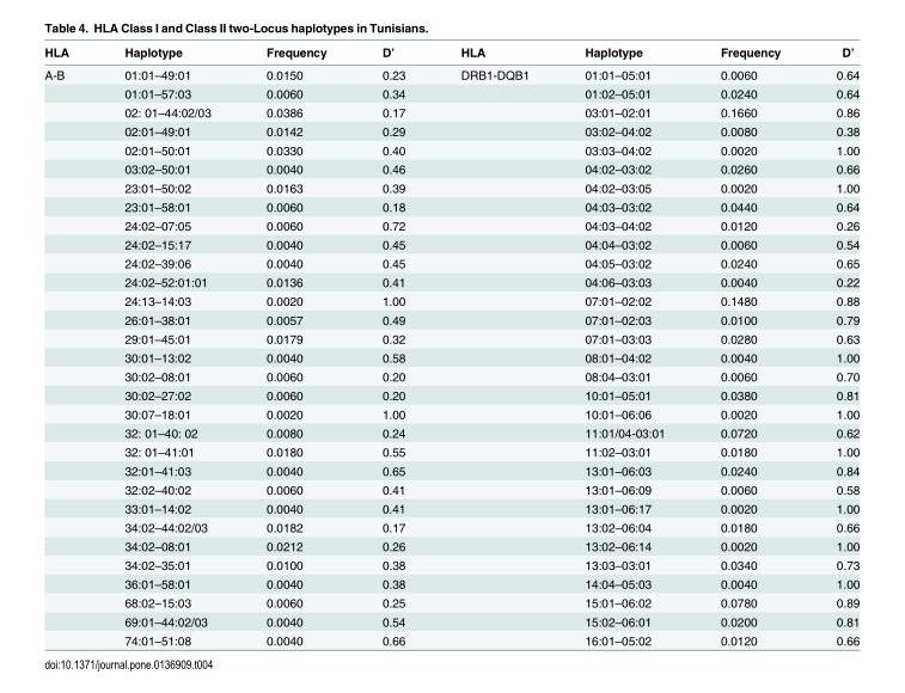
<table><thead><tr><td>HLA</td><td>Haplotype</td><td>Frequency</td><td>D’</td><td>HLA</td><td>Haplotype</td><td>Frequency</td><td>D’</td></tr></thead><tbody><tr><td rowspan="31">A-B</td><td>01:01–49:01</td><td>0.0150</td><td>0.23</td><td>DRB1-DQB1</td><td>01:01–05:01</td><td>0.0060</td><td>0.64</td></tr><tr><td>01:01–57:03</td><td>0.0060</td><td>0.34</td><td></td><td>01:02–05:01</td><td>0.0240</td><td>0.64</td></tr><tr><td>02: 01–44:02/03</td><td>0.0386</td><td>0.17</td><td></td><td>03:01–02:01</td><td>0.1660</td><td>0.86</td></tr><tr><td>02:01–49:01</td><td>0.0142</td><td>0.29</td><td></td><td>03:02–04:02</td><td>0.0080</td><td>0.38</td></tr><tr><td>02:01–50:01</td><td>0.0330</td><td>0.40</td><td></td><td>03:03–04:02</td><td>0.0020</td><td>1.00</td></tr><tr><td>03:02–50:01</td><td>0.0040</td><td>0.46</td><td></td><td>04:02–03:02</td><td>0.0260</td><td>0.66</td></tr><tr><td>23:01–50:02</td><td>0.0163</td><td>0.39</td><td></td><td>04:02–03:05</td><td>0.0020</td><td>1.00</td></tr><tr><td>23:01–58:01</td><td>0.0060</td><td>0.18</td><td></td><td>04:03–03:02</td><td>0.0440</td><td>0.64</td></tr><tr><td>24:02–07:05</td><td>0.0060</td><td>0.72</td><td></td><td>04:03–04:02</td><td>0.0120</td><td>0.26</td></tr><tr><td>24:02–15:17</td><td>0.0040</td><td>0.45</td><td></td><td>04:04–03:02</td><td>0.0060</td><td>0.54</td></tr><tr><td>24:02–39:06</td><td>0.0040</td><td>0.45</td><td></td><td>04:05–03:02</td><td>0.0240</td><td>0.65</td></tr><tr><td>24:02–52:01:01</td><td>0.0136</td><td>0.41</td><td></td><td>04:06–03:03</td><td>0.0040</td><td>0.22</td></tr><tr><td>24:13–14:03</td><td>0.0020</td><td>1.00</td><td></td><td>07:01–02:02</td><td>0.1480</td><td>0.88</td></tr><tr><td>26:01–38:01</td><td>0.0057</td><td>0.49</td><td></td><td>07:01–02:03</td><td>0.0100</td><td>0.79</td></tr><tr><td>29:01–45:01</td><td>0.0179</td><td>0.32</td><td></td><td>07:01–03:03</td><td>0.0280</td><td>0.63</td></tr><tr><td>30:01–13:02</td><td>0.0040</td><td>0.58</td><td></td><td>08:01–04:02</td><td>0.0040</td><td>1.00</td></tr><tr><td>30:02–08:01</td><td>0.0060</td><td>0.20</td><td></td><td>08:04–03:01</td><td>0.0060</td><td>0.70</td></tr><tr><td>30:02–27:02</td><td>0.0060</td><td>0.20</td><td></td><td>10:01–05:01</td><td>0.0380</td><td>0.81</td></tr><tr><td>30:07–18:01</td><td>0.0020</td><td>1.00</td><td></td><td>10:01–06:06</td><td>0.0020</td><td>1.00</td></tr><tr><td>32: 01–40: 02</td><td>0.0080</td><td>0.24</td><td></td><td>11:01/04-03:01</td><td>0.0720</td><td>0.62</td></tr><tr><td>32: 01–41:01</td><td>0.0180</td><td>0.55</td><td></td><td>11:02–03:01</td><td>0.0180</td><td>1.00</td></tr><tr><td>32:01–41:03</td><td>0.0040</td><td>0.65</td><td></td><td>13:01–06:03</td><td>0.0240</td><td>0.84</td></tr><tr><td>32:02–40:02</td><td>0.0060</td><td>0.41</td><td></td><td>13:01–06:09</td><td>0.0060</td><td>0.58</td></tr><tr><td>33:01–14:02</td><td>0.0040</td><td>0.41</td><td></td><td>13:01–06:17</td><td>0.0020</td><td>1.00</td></tr><tr><td>34:02–44:02/03</td><td>0.0182</td><td>0.17</td><td></td><td>13:02–06:04</td><td>0.0180</td><td>0.66</td></tr><tr><td>34:02–08:01</td><td>0.0212</td><td>0.26</td><td></td><td>13:02–06:14</td><td>0.0020</td><td>1.00</td></tr><tr><td>34:02–35:01</td><td>0.0100</td><td>0.38</td><td></td><td>13:03–03:01</td><td>0.0340</td><td>0.73</td></tr><tr><td>36:01–58:01</td><td>0.0040</td><td>0.38</td><td></td><td>14:04–05:03</td><td>0.0040</td><td>1.00</td></tr><tr><td>68:02–15:03</td><td>0.0060</td><td>0.25</td><td></td><td>15:01–06:02</td><td>0.0780</td><td>0.89</td></tr><tr><td>69:01–44:02/03</td><td>0.0040</td><td>0.54</td><td></td><td>15:02–06:01</td><td>0.0200</td><td>0.81</td></tr><tr><td>74:01–51:08</td><td>0.0040</td><td>0.66</td><td></td><td>16:01–05:02</td><td>0.0120</td><td>0.66</td></tr></tbody></table>